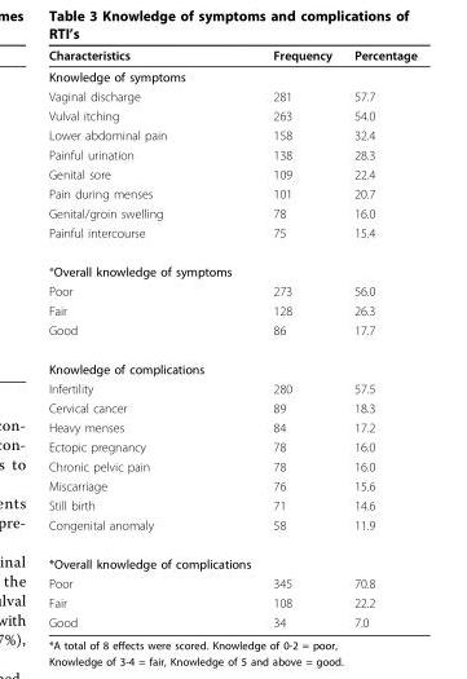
<table><thead><tr><td>Characteristics</td><td>Frequency</td><td>Percentage</td></tr></thead><tbody><tr><td colspan="3">Knowledge of symptoms</td></tr><tr><td>Vaginal discharge</td><td>281</td><td>57.7</td></tr><tr><td>Vulval itching</td><td>263</td><td>54.0</td></tr><tr><td>Lower abdominal pain</td><td>158</td><td>32.4</td></tr><tr><td>Painful urination</td><td>138</td><td>28.3</td></tr><tr><td>Genital sore</td><td>109</td><td>22.4</td></tr><tr><td>Pain during menses</td><td>101</td><td>20.7</td></tr><tr><td>Genital/groin swelling</td><td>78</td><td>16.0</td></tr><tr><td>Painful intercourse</td><td>75</td><td>15.4</td></tr><tr><td colspan="3">*Overall knowledge of symptoms</td></tr><tr><td>Poor</td><td>273</td><td>56.0</td></tr><tr><td>Fair</td><td>128</td><td>26.3</td></tr><tr><td>Good</td><td>86</td><td>17.7</td></tr><tr><td colspan="3">Knowledge of complications</td></tr><tr><td>Infertility</td><td>280</td><td>57.5</td></tr><tr><td>Cervical cancer</td><td>89</td><td>18.3</td></tr><tr><td>Heavy menses</td><td>84</td><td>17.2</td></tr><tr><td>Ectopic pregnancy</td><td>78</td><td>16.0</td></tr><tr><td>Chronic pelvic pain</td><td>78</td><td>16.0</td></tr><tr><td>Miscarriage</td><td>76</td><td>15.6</td></tr><tr><td>Still birth</td><td>71</td><td>14.6</td></tr><tr><td>Congenital anomaly</td><td>58</td><td>11.9</td></tr><tr><td colspan="3">*Overall knowledge of complications</td></tr><tr><td>Poor</td><td>345</td><td>70.8</td></tr><tr><td>Fair</td><td>108</td><td>22.2</td></tr><tr><td>Good</td><td>34</td><td>7.0</td></tr></tbody></table>